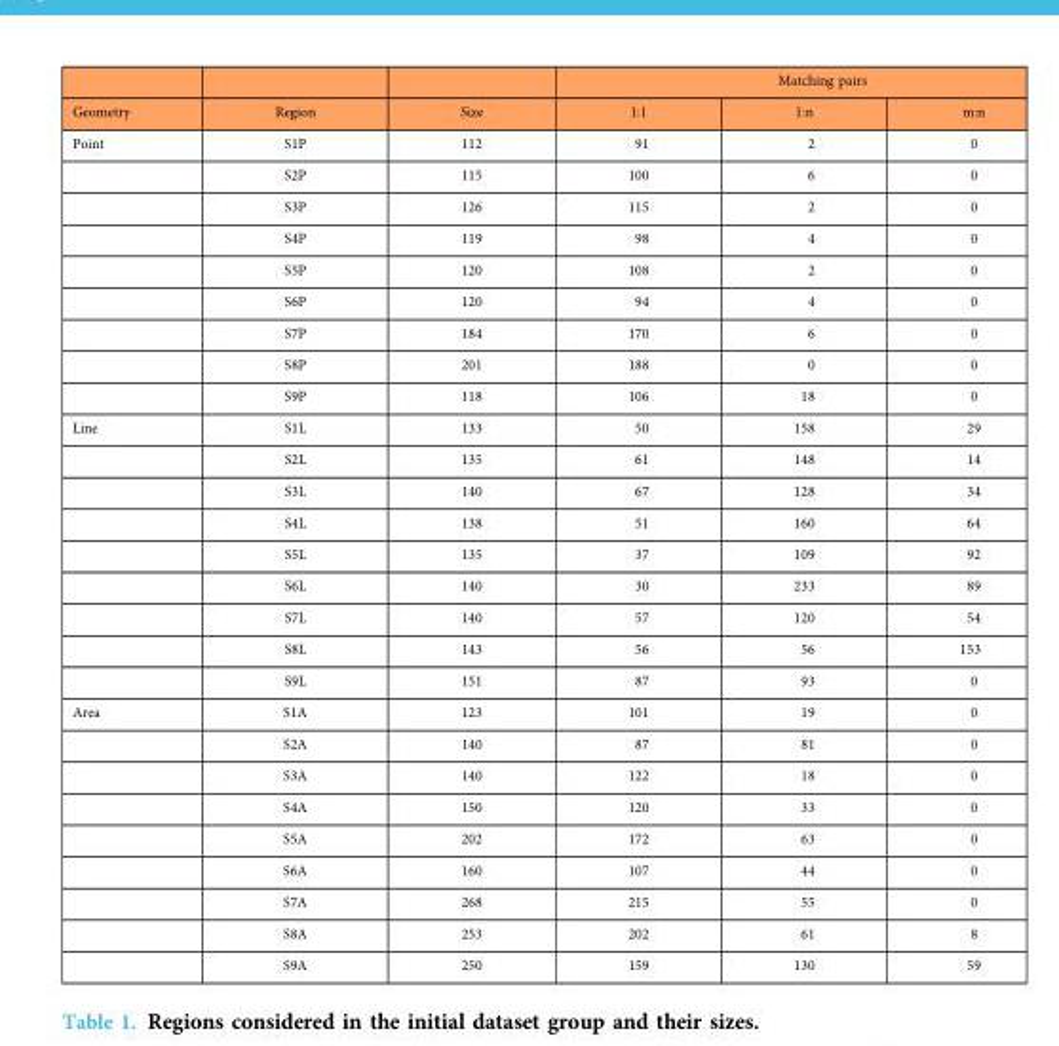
<table><thead><tr><td rowspan="2">Geometry</td><td rowspan="2">Region</td><td rowspan="2">Size</td><td colspan="3">Matching pairs</td></tr><tr><td>1:1</td><td>1:n</td><td>m:n</td></tr></thead><tbody><tr><td rowspan="9">Point</td><td>S1P</td><td>112</td><td>91</td><td>2</td><td>0</td></tr><tr><td>S2P</td><td>115</td><td>100</td><td>6</td><td>0</td></tr><tr><td>S3P</td><td>126</td><td>115</td><td>2</td><td>0</td></tr><tr><td>S4P</td><td>119</td><td>98</td><td>4</td><td>0</td></tr><tr><td>S5P</td><td>120</td><td>108</td><td>2</td><td>0</td></tr><tr><td>S6P</td><td>120</td><td>94</td><td>4</td><td>0</td></tr><tr><td>S7P</td><td>184</td><td>170</td><td>6</td><td>0</td></tr><tr><td>S8P</td><td>201</td><td>188</td><td>0</td><td>0</td></tr><tr><td>S9P</td><td>118</td><td>106</td><td>18</td><td>0</td></tr><tr><td rowspan="9">Line</td><td>S1L</td><td>133</td><td>50</td><td>158</td><td>29</td></tr><tr><td>S2L</td><td>135</td><td>61</td><td>148</td><td>14</td></tr><tr><td>S3L</td><td>140</td><td>67</td><td>128</td><td>34</td></tr><tr><td>S4L</td><td>138</td><td>51</td><td>160</td><td>64</td></tr><tr><td>S5L</td><td>135</td><td>37</td><td>109</td><td>92</td></tr><tr><td>S6L</td><td>140</td><td>30</td><td>233</td><td>89</td></tr><tr><td>S7L</td><td>140</td><td>57</td><td>120</td><td>54</td></tr><tr><td>S8L</td><td>143</td><td>56</td><td>56</td><td>153</td></tr><tr><td>S9L</td><td>151</td><td>87</td><td>93</td><td>0</td></tr><tr><td rowspan="9">Area</td><td>S1A</td><td>123</td><td>101</td><td>19</td><td>0</td></tr><tr><td>S2A</td><td>140</td><td>87</td><td>81</td><td>0</td></tr><tr><td>S3A</td><td>140</td><td>122</td><td>18</td><td>0</td></tr><tr><td>S4A</td><td>150</td><td>120</td><td>33</td><td>0</td></tr><tr><td>S5A</td><td>202</td><td>172</td><td>63</td><td>0</td></tr><tr><td>S6A</td><td>160</td><td>107</td><td>44</td><td>0</td></tr><tr><td>S7A</td><td>268</td><td>215</td><td>55</td><td>0</td></tr><tr><td>S8A</td><td>253</td><td>202</td><td>61</td><td>8</td></tr><tr><td>S9A</td><td>250</td><td>159</td><td>130</td><td>59</td></tr></tbody></table>